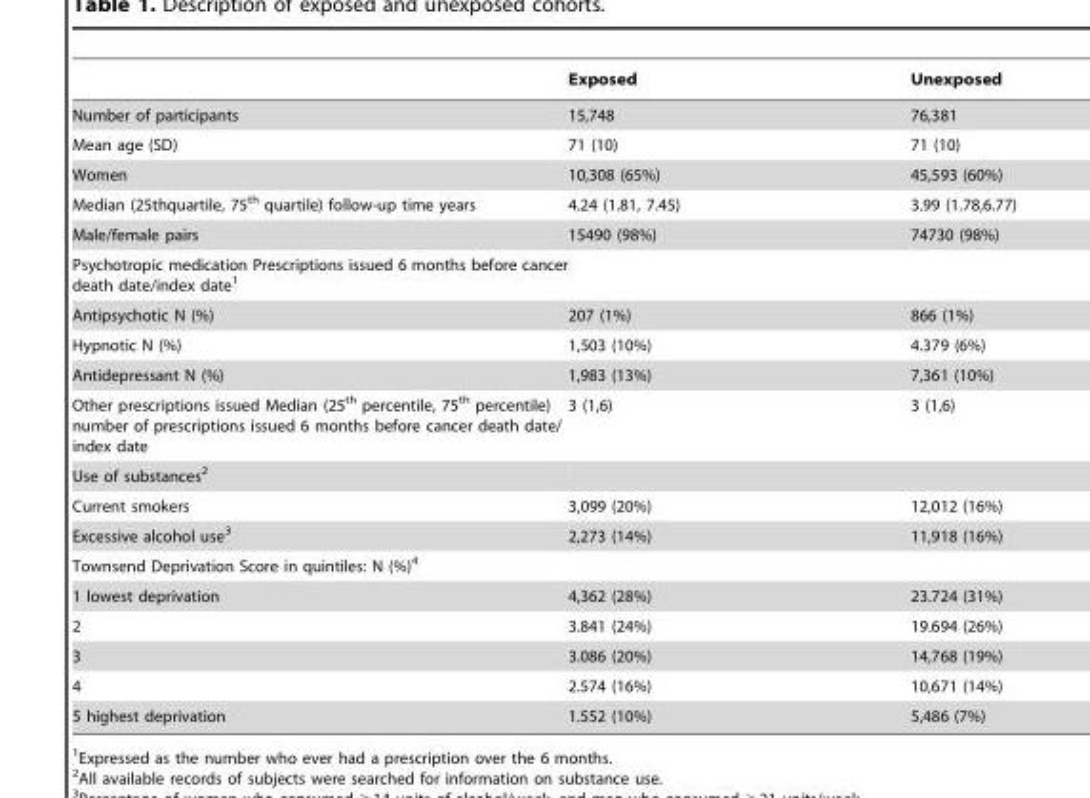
<table><thead><tr><td></td><td>Exposed</td><td>Unexposed</td></tr></thead><tbody><tr><td>Number of participants</td><td>15,748</td><td>76,381</td></tr><tr><td>Mean age (SD)</td><td>71 (10)</td><td>71 (10)</td></tr><tr><td>Women</td><td>10,308 (65%)</td><td>45,593 (60%)</td></tr><tr><td>Median (25thquartile, 75<sup>th</sup> quartile) follow-up time years</td><td>4.24 (1.81, 7.45)</td><td>3.99 (1.78,6.77)</td></tr><tr><td>Male/female pairs</td><td>15490 (98%)</td><td>74730 (98%)</td></tr><tr><td colspan="3">Psychotropic medication Prescriptions issued 6 months before cancer death date/index date<sup>1</sup></td></tr><tr><td>Antipsychotic N (%)</td><td>207 (1%)</td><td>866 (1%)</td></tr><tr><td>Hypnotic N (%)</td><td>1,503 (10%)</td><td>4.379 (6%)</td></tr><tr><td>Antidepressant N (%)</td><td>1,983 (13%)</td><td>7,361 (10%)</td></tr><tr><td>Other prescriptions issued Median (25<sup>th</sup> percentile, 75<sup>th</sup> percentile) number of prescriptions issued 6 months before cancer death date/ index date</td><td>3 (1,6)</td><td>3 (1,6)</td></tr><tr><td colspan="3">Use of substances<sup>2</sup></td></tr><tr><td>Current smokers</td><td>3,099 (20%)</td><td>12,012 (16%)</td></tr><tr><td>Excessive alcohol use<sup>3</sup></td><td>2,273 (14%)</td><td>11,918 (16%)</td></tr><tr><td colspan="3">Townsend Deprivation Score in quintiles: N (%)<sup>4</sup></td></tr><tr><td>1 lowest deprivation</td><td>4,362 (28%)</td><td>23.724 (31%)</td></tr><tr><td>2</td><td>3.841 (24%)</td><td>19.694 (26%)</td></tr><tr><td>3</td><td>3.086 (20%)</td><td>14,768 (19%)</td></tr><tr><td>4</td><td>2.574 (16%)</td><td>10,671 (14%)</td></tr><tr><td>5 highest deprivation</td><td>1.552 (10%)</td><td>5,486 (7%)</td></tr></tbody></table>